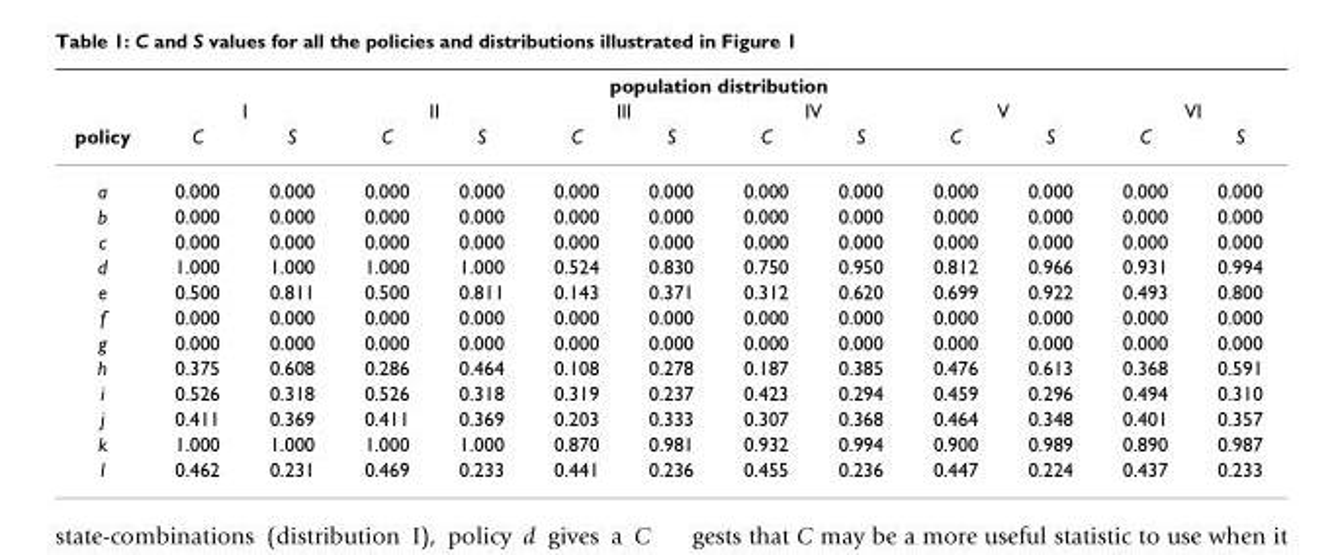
<table><thead><tr><td rowspan="3">policy</td><td colspan="12">population distribution</td></tr><tr><td colspan="2">I</td><td colspan="2">II</td><td colspan="2">III</td><td colspan="2">IV</td><td colspan="2">V</td><td colspan="2">VI</td></tr><tr><td>C</td><td>S</td><td>C</td><td>S</td><td>C</td><td>S</td><td>C</td><td>S</td><td>C</td><td>S</td><td>C</td><td>S</td></tr></thead><tbody><tr><td>a</td><td>0.000</td><td>0.000</td><td>0.000</td><td>0.000</td><td>0.000</td><td>0.000</td><td>0.000</td><td>0.000</td><td>0.000</td><td>0.000</td><td>0.000</td><td>0.000</td></tr><tr><td>b</td><td>0.000</td><td>0.000</td><td>0.000</td><td>0.000</td><td>0.000</td><td>0.000</td><td>0.000</td><td>0.000</td><td>0.000</td><td>0.000</td><td>0.000</td><td>0.000</td></tr><tr><td>c</td><td>0.000</td><td>0.000</td><td>0.000</td><td>0.000</td><td>0.000</td><td>0.000</td><td>0.000</td><td>0.000</td><td>0.000</td><td>0.000</td><td>0.000</td><td>0.000</td></tr><tr><td>d</td><td>1.000</td><td>1.000</td><td>1.000</td><td>1.000</td><td>0.524</td><td>0.830</td><td>0.750</td><td>0.950</td><td>0.812</td><td>0.966</td><td>0.931</td><td>0.994</td></tr><tr><td>e</td><td>0.500</td><td>0.811</td><td>0.500</td><td>0.811</td><td>0.143</td><td>0.371</td><td>0.312</td><td>0.620</td><td>0.699</td><td>0.922</td><td>0.493</td><td>0.800</td></tr><tr><td>f</td><td>0.000</td><td>0.000</td><td>0.000</td><td>0.000</td><td>0.000</td><td>0.000</td><td>0.000</td><td>0.000</td><td>0.000</td><td>0.000</td><td>0.000</td><td>0.000</td></tr><tr><td>g</td><td>0.000</td><td>0.000</td><td>0.000</td><td>0.000</td><td>0.000</td><td>0.000</td><td>0.000</td><td>0.000</td><td>0.000</td><td>0.000</td><td>0.000</td><td>0.000</td></tr><tr><td>h</td><td>0.375</td><td>0.608</td><td>0.286</td><td>0.464</td><td>0.108</td><td>0.278</td><td>0.187</td><td>0.385</td><td>0.476</td><td>0.613</td><td>0.368</td><td>0.591</td></tr><tr><td>i</td><td>0.526</td><td>0.318</td><td>0.526</td><td>0.318</td><td>0.319</td><td>0.237</td><td>0.423</td><td>0.294</td><td>0.459</td><td>0.296</td><td>0.494</td><td>0.310</td></tr><tr><td>j</td><td>0.411</td><td>0.369</td><td>0.411</td><td>0.369</td><td>0.203</td><td>0.333</td><td>0.307</td><td>0.368</td><td>0.464</td><td>0.348</td><td>0.401</td><td>0.357</td></tr><tr><td>k</td><td>1.000</td><td>1.000</td><td>1.000</td><td>1.000</td><td>0.870</td><td>0.981</td><td>0.932</td><td>0.994</td><td>0.900</td><td>0.989</td><td>0.890</td><td>0.987</td></tr><tr><td>l</td><td>0.462</td><td>0.231</td><td>0.469</td><td>0.233</td><td>0.441</td><td>0.236</td><td>0.455</td><td>0.236</td><td>0.447</td><td>0.224</td><td>0.437</td><td>0.233</td></tr></tbody></table>